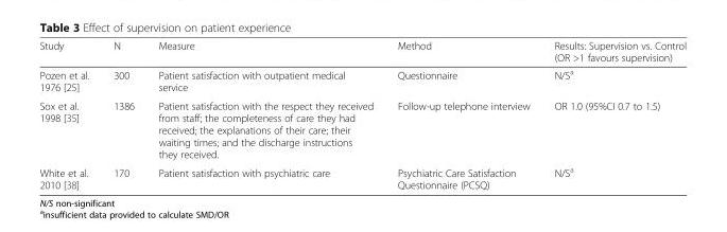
<table><thead><tr><td>Study</td><td>N</td><td>Measure</td><td>Method</td><td>Results: Supervision vs. Control (OR &gt;1 favours supervision)</td></tr></thead><tbody><tr><td>Pozen et al. 1976 [25]</td><td>300</td><td>Patient satisfaction with outpatient medical service</td><td>Questionnaire</td><td>N/S<sup>a</sup></td></tr><tr><td>Sox et al. 1998 [35]</td><td>1386</td><td>Patient satisfaction with the respect they received from staff; the completeness of care they had received; the explanations of their care; their waiting times; and the discharge instructions they received.</td><td>Follow-up telephone interview</td><td>OR 1.0 (95%CI 0.7 to 1.5)</td></tr><tr><td>White et al. 2010 [38]</td><td>170</td><td>Patient satisfaction with psychiatric care</td><td>Psychiatric Care Satisfaction Questionnaire (PCSQ)</td><td>N/S<sup>a</sup></td></tr></tbody></table>